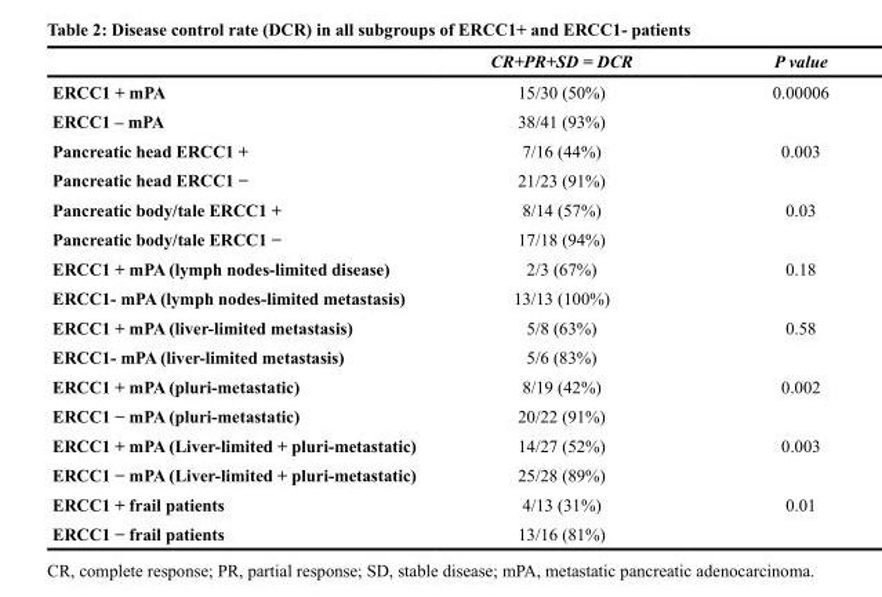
<table><thead><tr><td></td><td>CR+PR+SD = DCR</td><td>P value</td></tr></thead><tbody><tr><td>ERCC1 + mPA</td><td>15/30 (50%)</td><td>0.00006</td></tr><tr><td>ERCC1 – mPA</td><td>38/41 (93%)</td><td></td></tr><tr><td>Pancreatic head ERCC1 +</td><td>7/16 (44%)</td><td>0.003</td></tr><tr><td>Pancreatic head ERCC1 −</td><td>21/23 (91%)</td><td></td></tr><tr><td>Pancreatic body/tale ERCC1 +</td><td>8/14 (57%)</td><td>0.03</td></tr><tr><td>Pancreatic body/tale ERCC1 −</td><td>17/18 (94%)</td><td></td></tr><tr><td>ERCC1 + mPA (lymph nodes-limited disease)</td><td>2/3 (67%)</td><td>0.18</td></tr><tr><td>ERCC1- mPA (lymph nodes-limited metastasis)</td><td>13/13 (100%)</td><td></td></tr><tr><td>ERCC1 + mPA (liver-limited metastasis)</td><td>5/8 (63%)</td><td>0.58</td></tr><tr><td>ERCC1- mPA (liver-limited metastasis)</td><td>5/6 (83%)</td><td></td></tr><tr><td>ERCC1 + mPA (pluri-metastatic)</td><td>8/19 (42%)</td><td>0.002</td></tr><tr><td>ERCC1 − mPA (pluri-metastatic)</td><td>20/22 (91%)</td><td></td></tr><tr><td>ERCC1 + mPA (Liver-limited + pluri-metastatic)</td><td>14/27 (52%)</td><td>0.003</td></tr><tr><td>ERCC1 − mPA (Liver-limited + pluri-metastatic)</td><td>25/28 (89%)</td><td></td></tr><tr><td>ERCC1 + frail patients</td><td>4/13 (31%)</td><td>0.01</td></tr><tr><td>ERCC1 − frail patients</td><td>13/16 (81%)</td><td></td></tr></tbody></table>